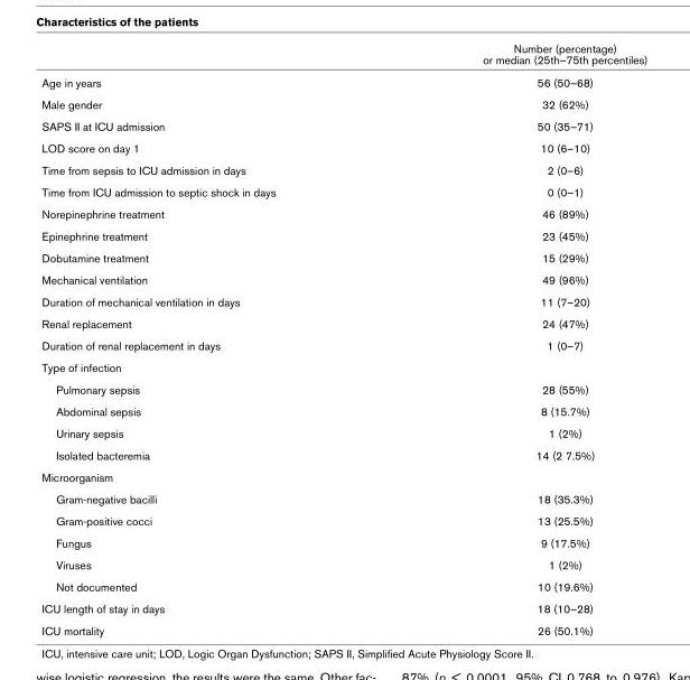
<table><thead><tr><td></td><td>Number (percentage) or median (25th–75th percentiles)</td></tr></thead><tbody><tr><td>Age in years</td><td>56 (50–68)</td></tr><tr><td>Male gender</td><td>32 (62%)</td></tr><tr><td>SAPS II at ICU admission</td><td>50 (35–71)</td></tr><tr><td>LOD score on day 1</td><td>10 (6–10)</td></tr><tr><td>Time from sepsis to ICU admission in days</td><td>2 (0–6)</td></tr><tr><td>Time from ICU admission to septic shock in days</td><td>0 (0–1)</td></tr><tr><td>Norepinephrine treatment</td><td>46 (89%)</td></tr><tr><td>Epinephrine treatment</td><td>23 (45%)</td></tr><tr><td>Dobutamine treatment</td><td>15 (29%)</td></tr><tr><td>Mechanical ventilation</td><td>49 (96%)</td></tr><tr><td>Duration of mechanical ventilation in days</td><td>11 (7–20)</td></tr><tr><td>Renal replacement</td><td>24 (47%)</td></tr><tr><td>Duration of renal replacement in days</td><td>1 (0–7)</td></tr><tr><td colspan="2">Type of infection</td></tr><tr><td>Pulmonary sepsis</td><td>28 (55%)</td></tr><tr><td>Abdominal sepsis</td><td>8 (15.7%)</td></tr><tr><td>Urinary sepsis</td><td>1 (2%)</td></tr><tr><td>Isolated bacteremia</td><td>14 (2 7.5%)</td></tr><tr><td colspan="2">Microorganism</td></tr><tr><td>Gram-negative bacilli</td><td>18 (35.3%)</td></tr><tr><td>Gram-positive cocci</td><td>13 (25.5%)</td></tr><tr><td>Fungus</td><td>9 (17.5%)</td></tr><tr><td>Viruses</td><td>1 (2%)</td></tr><tr><td>Not documented</td><td>10 (19.6%)</td></tr><tr><td>ICU length of stay in days</td><td>18 (10–28)</td></tr><tr><td>ICU mortality</td><td>26 (50.1%)</td></tr></tbody></table>